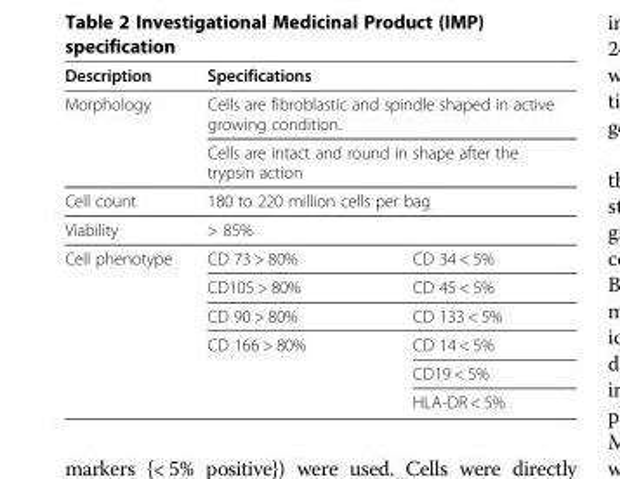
<table><thead><tr><td>Description</td><td colspan="2">Specifications</td></tr></thead><tbody><tr><td rowspan="2">Morphology</td><td colspan="2">Cells are fibroblastic and spindle shaped in active growing condition.</td></tr><tr><td colspan="2">Cells are intact and round in shape after the trypsin action</td></tr><tr><td>Cell count</td><td colspan="2">180 to 220 million cells per bag</td></tr><tr><td>Viability</td><td colspan="2">&gt; 85%</td></tr><tr><td rowspan="6">Cell phenotype</td><td>CD 73 &gt; 80%</td><td>CD 34 &lt; 5%</td></tr><tr><td>CD105 &gt; 80%</td><td>CD 45 &lt; 5%</td></tr><tr><td>CD 90 &gt; 80%</td><td>CD 133 &lt; 5%</td></tr><tr><td rowspan="3">CD 166 &gt; 80%</td><td>CD 14 &lt; 5%</td></tr><tr><td>CD19 &lt; 5%</td></tr><tr><td>HLA-DR &lt; 5%</td></tr></tbody></table>